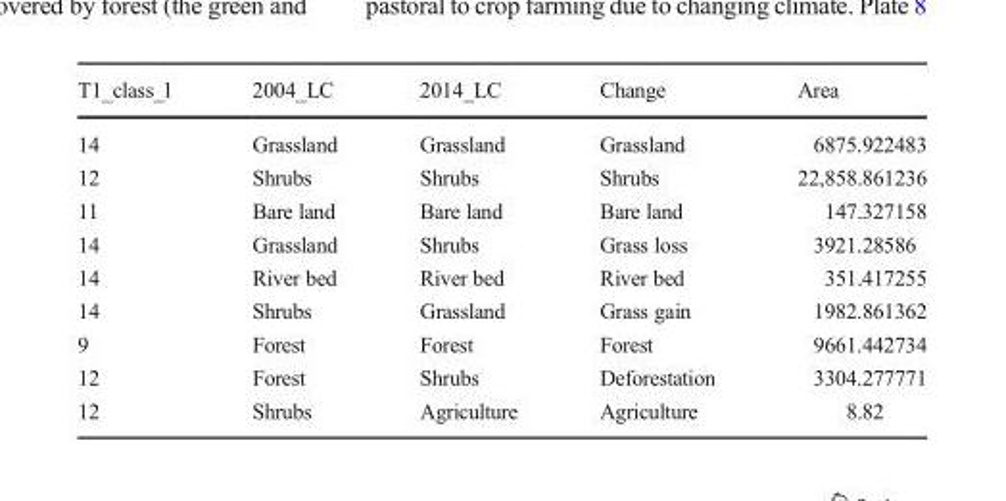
<table><thead><tr><td>T1_class_l</td><td>2004_LC</td><td>2014_LC</td><td>Change</td><td>Area</td></tr></thead><tbody><tr><td>14</td><td>Grassland</td><td>Grassland</td><td>Grassland</td><td>6875.922483</td></tr><tr><td>12</td><td>Shrubs</td><td>Shrubs</td><td>Shrubs</td><td>22,858.861236</td></tr><tr><td>11</td><td>Bare land</td><td>Bare land</td><td>Bare land</td><td>147.327158</td></tr><tr><td>14</td><td>Grassland</td><td>Shrubs</td><td>Grass loss</td><td>3921.28586</td></tr><tr><td>14</td><td>River bed</td><td>River bed</td><td>River bed</td><td>351.417255</td></tr><tr><td>14</td><td>Shrubs</td><td>Grassland</td><td>Grass gain</td><td>1982.861362</td></tr><tr><td>9</td><td>Forest</td><td>Forest</td><td>Forest</td><td>9661.442734</td></tr><tr><td>12</td><td>Forest</td><td>Shrubs</td><td>Deforestation</td><td>3304.277771</td></tr><tr><td>12</td><td>Shrubs</td><td>Agriculture</td><td>Agriculture</td><td>8.82</td></tr></tbody></table>